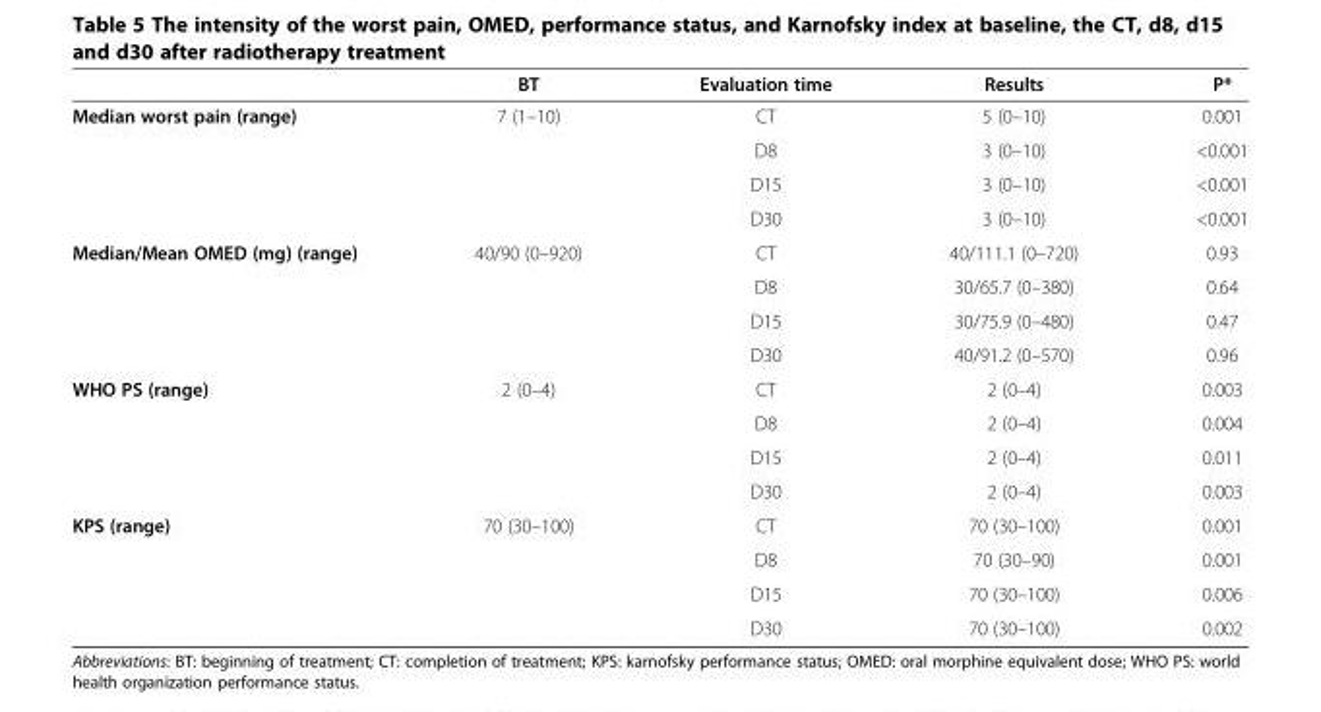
<table><thead><tr><td></td><td>BT</td><td>Evaluation time</td><td>Results</td><td>P*</td></tr></thead><tbody><tr><td rowspan="4">Median worst pain (range)</td><td>7 (1–10)</td><td>CT</td><td>5 (0–10)</td><td>0.001</td></tr><tr><td></td><td>D8</td><td>3 (0–10)</td><td>&lt;0.001</td></tr><tr><td></td><td>D15</td><td>3 (0–10)</td><td>&lt;0.001</td></tr><tr><td></td><td>D30</td><td>3 (0–10)</td><td>&lt;0.001</td></tr><tr><td rowspan="4">Median/Mean OMED (mg) (range)</td><td>40/90 (0–920)</td><td>CT</td><td>40/111.1 (0–720)</td><td>0.93</td></tr><tr><td></td><td>D8</td><td>30/65.7 (0–380)</td><td>0.64</td></tr><tr><td></td><td>D15</td><td>30/75.9 (0–480)</td><td>0.47</td></tr><tr><td></td><td>D30</td><td>40/91.2 (0–570)</td><td>0.96</td></tr><tr><td rowspan="4">WHO PS (range)</td><td>2 (0–4)</td><td>CT</td><td>2 (0–4)</td><td>0.003</td></tr><tr><td></td><td>D8</td><td>2 (0–4)</td><td>0.004</td></tr><tr><td></td><td>D15</td><td>2 (0–4)</td><td>0.011</td></tr><tr><td></td><td>D30</td><td>2 (0–4)</td><td>0.003</td></tr><tr><td rowspan="4">KPS (range)</td><td>70 (30–100)</td><td>CT</td><td>70 (30–100)</td><td>0.001</td></tr><tr><td></td><td>D8</td><td>70 (30–90)</td><td>0.001</td></tr><tr><td></td><td>D15</td><td>70 (30–100)</td><td>0.006</td></tr><tr><td></td><td>D30</td><td>70 (30–100)</td><td>0.002</td></tr></tbody></table>